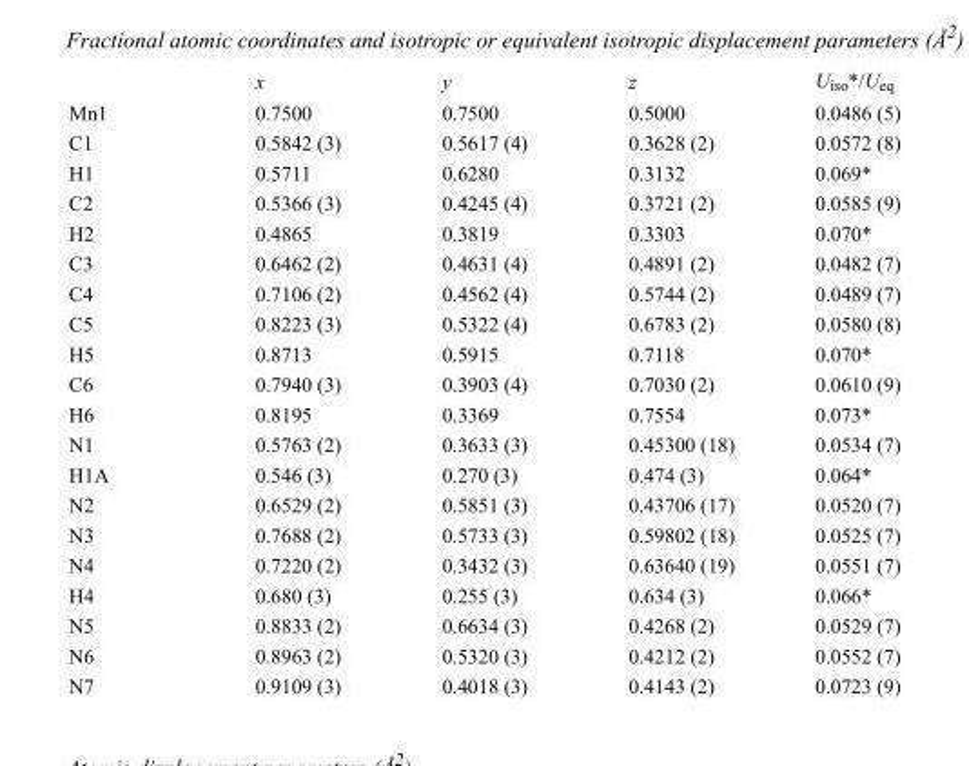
<table><thead><tr><td></td><td>x</td><td>y</td><td>z</td><td>Uiso*/Ueq</td></tr></thead><tbody><tr><td>Mn1</td><td>0.7500</td><td>0.7500</td><td>0.5000</td><td>0.0486 (5)</td></tr><tr><td>C1</td><td>0.5842 (3)</td><td>0.5617 (4)</td><td>0.3628 (2)</td><td>0.0572 (8)</td></tr><tr><td>H1</td><td>0.5711</td><td>0.6280</td><td>0.3132</td><td>0.069*</td></tr><tr><td>C2</td><td>0.5366 (3)</td><td>0.4245 (4)</td><td>0.3721 (2)</td><td>0.0585 (9)</td></tr><tr><td>H2</td><td>0.4865</td><td>0.3819</td><td>0.3303</td><td>0.070*</td></tr><tr><td>C3</td><td>0.6462 (2)</td><td>0.4631 (4)</td><td>0.4891 (2)</td><td>0.0482 (7)</td></tr><tr><td>C4</td><td>0.7106 (2)</td><td>0.4562 (4)</td><td>0.5744 (2)</td><td>0.0489 (7)</td></tr><tr><td>C5</td><td>0.8223 (3)</td><td>0.5322 (4)</td><td>0.6783 (2)</td><td>0.0580 (8)</td></tr><tr><td>H5</td><td>0.8713</td><td>0.5915</td><td>0.7118</td><td>0.070*</td></tr><tr><td>C6</td><td>0.7940 (3)</td><td>0.3903 (4)</td><td>0.7030 (2)</td><td>0.0610 (9)</td></tr><tr><td>H6</td><td>0.8195</td><td>0.3369</td><td>0.7554</td><td>0.073*</td></tr><tr><td>N1</td><td>0.5763 (2)</td><td>0.3633 (3)</td><td>0.45300 (18)</td><td>0.0534 (7)</td></tr><tr><td>H1A</td><td>0.546 (3)</td><td>0.270 (3)</td><td>0.474 (3)</td><td>0.064*</td></tr><tr><td>N2</td><td>0.6529 (2)</td><td>0.5851 (3)</td><td>0.43706 (17)</td><td>0.0520 (7)</td></tr><tr><td>N3</td><td>0.7688 (2)</td><td>0.5733 (3)</td><td>0.59802 (18)</td><td>0.0525 (7)</td></tr><tr><td>N4</td><td>0.7220 (2)</td><td>0.3432 (3)</td><td>0.63640 (19)</td><td>0.0551 (7)</td></tr><tr><td>H4</td><td>0.680 (3)</td><td>0.255 (3)</td><td>0.634 (3)</td><td>0.066*</td></tr><tr><td>N5</td><td>0.8833 (2)</td><td>0.6634 (3)</td><td>0.4268 (2)</td><td>0.0529 (7)</td></tr><tr><td>N6</td><td>0.8963 (2)</td><td>0.5320 (3)</td><td>0.4212 (2)</td><td>0.0552 (7)</td></tr><tr><td>N7</td><td>0.9109 (3)</td><td>0.4018 (3)</td><td>0.4143 (2)</td><td>0.0723 (9)</td></tr></tbody></table>